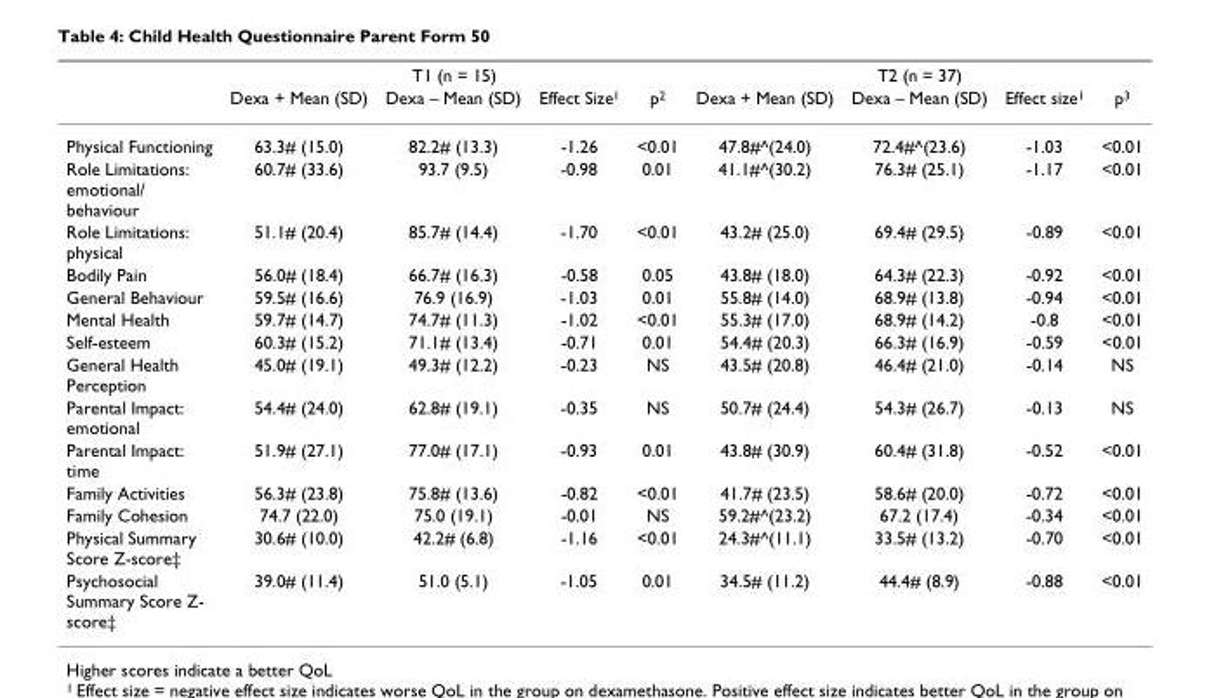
<table><thead><tr><td rowspan="2"></td><td colspan="4">T1 (n = 15)</td><td colspan="4">T2 (n = 37)</td></tr><tr><td>Dexa + Mean (SD)</td><td>Dexa – Mean (SD)</td><td>Effect Size<sup>1</sup></td><td>p<sup>2</sup></td><td>Dexa + Mean (SD)</td><td>Dexa – Mean (SD)</td><td>Effect size<sup>1</sup></td><td>p<sup>3</sup></td></tr></thead><tbody><tr><td>Physical Functioning</td><td>63.3# (15.0)</td><td>82.2# (13.3)</td><td>-1.26</td><td>&lt;0.01</td><td>47.8#^(24.0)</td><td>72.4#^(23.6)</td><td>-1.03</td><td>&lt;0.01</td></tr><tr><td>Role Limitations: emotional/ behaviour</td><td>60.7# (33.6)</td><td>93.7 (9.5)</td><td>-0.98</td><td>0.01</td><td>41.1#^(30.2)</td><td>76.3# (25.1)</td><td>-1.17</td><td>&lt;0.01</td></tr><tr><td>Role Limitations: physical</td><td>51.1# (20.4)</td><td>85.7# (14.4)</td><td>-1.70</td><td>&lt;0.01</td><td>43.2# (25.0)</td><td>69.4# (29.5)</td><td>-0.89</td><td>&lt;0.01</td></tr><tr><td>Bodily Pain</td><td>56.0# (18.4)</td><td>66.7# (16.3)</td><td>-0.58</td><td>0.05</td><td>43.8# (18.0)</td><td>64.3# (22.3)</td><td>-0.92</td><td>&lt;0.01</td></tr><tr><td>General Behaviour</td><td>59.5# (16.6)</td><td>76.9 (16.9)</td><td>-1.03</td><td>0.01</td><td>55.8# (14.0)</td><td>68.9# (13.8)</td><td>-0.94</td><td>&lt;0.01</td></tr><tr><td>Mental Health</td><td>59.7# (14.7)</td><td>74.7# (11.3)</td><td>-1.02</td><td>&lt;0.01</td><td>55.3# (17.0)</td><td>68.9# (14.2)</td><td>-0.8</td><td>&lt;0.01</td></tr><tr><td>Self-esteem</td><td>60.3# (15.2)</td><td>71.1# (13.4)</td><td>-0.71</td><td>0.01</td><td>54.4# (20.3)</td><td>66.3# (16.9)</td><td>-0.59</td><td>&lt;0.01</td></tr><tr><td>General Health Perception</td><td>45.0# (19.1)</td><td>49.3# (12.2)</td><td>-0.23</td><td>NS</td><td>43.5# (20.8)</td><td>46.4# (21.0)</td><td>-0.14</td><td>NS</td></tr><tr><td>Parental Impact: emotional</td><td>54.4# (24.0)</td><td>62.8# (19.1)</td><td>-0.35</td><td>NS</td><td>50.7# (24.4)</td><td>54.3# (26.7)</td><td>-0.13</td><td>NS</td></tr><tr><td>Parental Impact: time</td><td>51.9# (27.1)</td><td>77.0# (17.1)</td><td>-0.93</td><td>0.01</td><td>43.8# (30.9)</td><td>60.4# (31.8)</td><td>-0.52</td><td>&lt;0.01</td></tr><tr><td>Family Activities</td><td>56.3# (23.8)</td><td>75.8# (13.6)</td><td>-0.82</td><td>&lt;0.01</td><td>41.7# (23.5)</td><td>58.6# (20.0)</td><td>-0.72</td><td>&lt;0.01</td></tr><tr><td>Family Cohesion</td><td>74.7 (22.0)</td><td>75.0 (19.1)</td><td>-0.01</td><td>NS</td><td>59.2#^(23.2)</td><td>67.2 (17.4)</td><td>-0.34</td><td>&lt;0.01</td></tr><tr><td>Physical Summary Score Z-score‡</td><td>30.6# (10.0)</td><td>42.2# (6.8)</td><td>-1.16</td><td>&lt;0.01</td><td>24.3#^(11.1)</td><td>33.5# (13.2)</td><td>-0.70</td><td>&lt;0.01</td></tr><tr><td>Psychosocial Summary Score Z- score‡</td><td>39.0# (11.4)</td><td>51.0 (5.1)</td><td>-1.05</td><td>0.01</td><td>34.5# (11.2)</td><td>44.4# (8.9)</td><td>-0.88</td><td>&lt;0.01</td></tr></tbody></table>